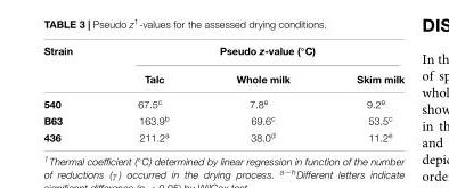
<table><thead><tr><td rowspan="2">Strain</td><td colspan="3">Pseudo z-value (◦C)</td></tr><tr><td>Talc</td><td>Whole milk</td><td>Skim milk</td></tr></thead><tbody><tr><td>540</td><td>67.5<sup>c</sup></td><td>7.8<sup>e</sup></td><td>9.2<sup>e</sup></td></tr><tr><td>B63</td><td>163.9<sup>b</sup></td><td>69.6<sup>c</sup></td><td>53.5<sup>c</sup></td></tr><tr><td>436</td><td>211.2<sup>a</sup></td><td>38.0<sup>d</sup></td><td>11.2<sup>e</sup></td></tr></tbody></table>